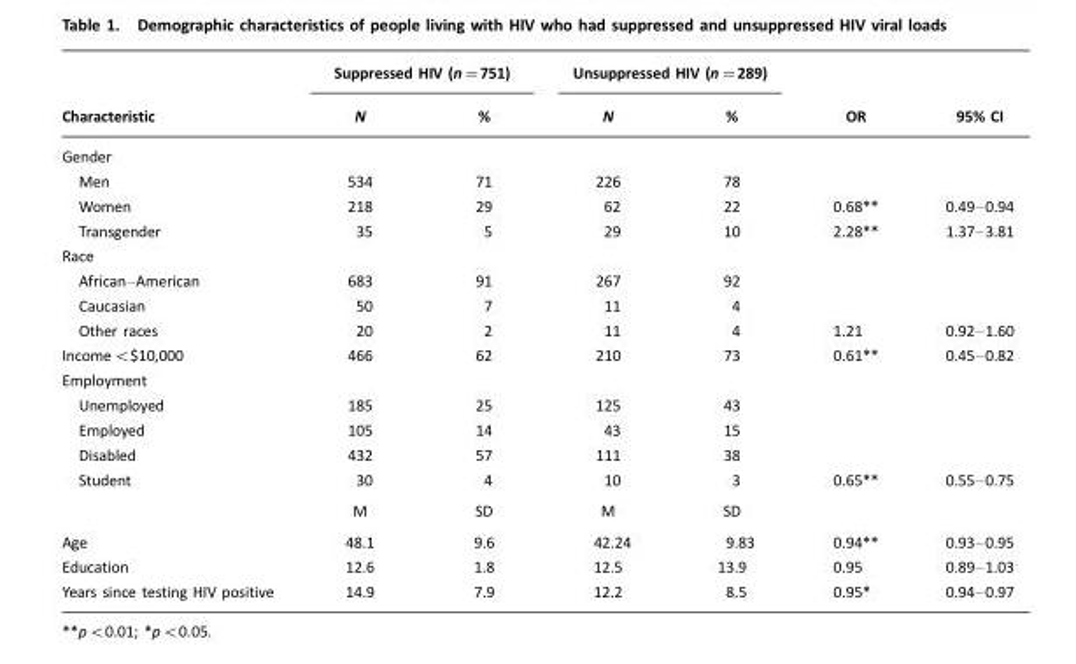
<table><thead><tr><td rowspan="2">Characteristic</td><td colspan="2">Suppressed HIV (n=751)</td><td colspan="2">Unsuppressed HIV (n=289)</td><td rowspan="2">OR</td><td rowspan="2">95% CI</td></tr><tr><td>N</td><td>%</td><td>N</td><td>%</td></tr></thead><tbody><tr><td colspan="7">Gender</td></tr><tr><td>Men</td><td>534</td><td>71</td><td>226</td><td>78</td><td></td><td></td></tr><tr><td>Women</td><td>218</td><td>29</td><td>62</td><td>22</td><td>0.68**</td><td>0.49–0.94</td></tr><tr><td>Transgender</td><td>35</td><td>5</td><td>29</td><td>10</td><td>2.28**</td><td>1.37–3.81</td></tr><tr><td colspan="7">Race</td></tr><tr><td>African–American</td><td>683</td><td>91</td><td>267</td><td>92</td><td></td><td></td></tr><tr><td>Caucasian</td><td>50</td><td>7</td><td>11</td><td>4</td><td></td><td></td></tr><tr><td>Other races</td><td>20</td><td>2</td><td>11</td><td>4</td><td>1.21</td><td>0.92–1.60</td></tr><tr><td>Income&lt;$10,000</td><td>466</td><td>62</td><td>210</td><td>73</td><td>0.61**</td><td>0.45–0.82</td></tr><tr><td colspan="7">Employment</td></tr><tr><td>Unemployed</td><td>185</td><td>25</td><td>125</td><td>43</td><td></td><td></td></tr><tr><td>Employed</td><td>105</td><td>14</td><td>43</td><td>15</td><td></td><td></td></tr><tr><td>Disabled</td><td>432</td><td>57</td><td>111</td><td>38</td><td></td><td></td></tr><tr><td rowspan="2">Student</td><td>30</td><td>4</td><td>10</td><td>3</td><td>0.65**</td><td>0.55–0.75</td></tr><tr><td>M</td><td>SD</td><td>M</td><td>SD</td><td></td><td></td></tr><tr><td>Age</td><td>48.1</td><td>9.6</td><td>42.24</td><td>9.83</td><td>0.94**</td><td>0.93–0.95</td></tr><tr><td>Education</td><td>12.6</td><td>1.8</td><td>12.5</td><td>13.9</td><td>0.95</td><td>0.89–1.03</td></tr><tr><td>Years since testing HIV positive</td><td>14.9</td><td>7.9</td><td>12.2</td><td>8.5</td><td>0.95*</td><td>0.94–0.97</td></tr></tbody></table>